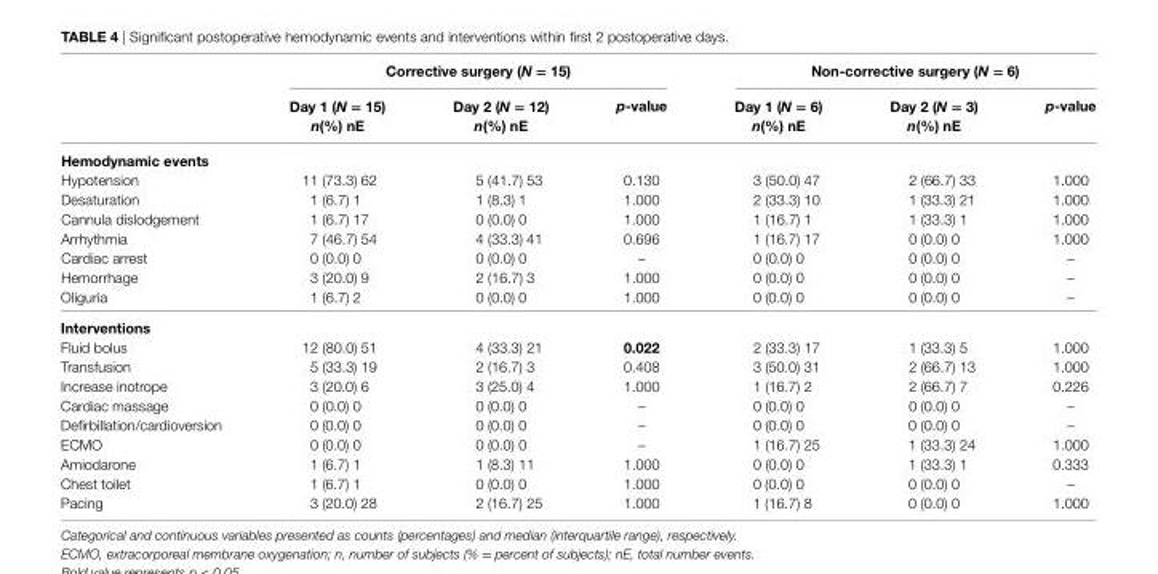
<table><thead><tr><td rowspan="2"></td><td colspan="3">corrective surgery (N = 15)</td><td colspan="3">non-corrective surgery (N = 6)</td></tr><tr><td>Day 1 (N = 15) n(%) ne</td><td>Day 2 (N = 12) n(%) ne</td><td>p-value</td><td>Day 1 (N = 6) n(%) ne</td><td>Day 2 (N = 3) n(%) ne</td><td>p-value</td></tr></thead><tbody><tr><td colspan="7">hemodynamic events</td></tr><tr><td>Hypotension</td><td>11 (73.3) 62</td><td>5 (41.7) 53</td><td>0.130</td><td>3 (50.0) 47</td><td>2 (66.7) 33</td><td>1.000</td></tr><tr><td>Desaturation</td><td>1 (6.7) 1</td><td>1 (8.3) 1</td><td>1.000</td><td>2 (33.3) 10</td><td>1 (33.3) 21</td><td>1.000</td></tr><tr><td>Cannula dislodgement</td><td>1 (6.7) 17</td><td>0 (0.0) 0</td><td>1.000</td><td>1 (16.7) 1</td><td>1 (33.3) 1</td><td>1.000</td></tr><tr><td>Arrhythmia</td><td>7 (46.7) 54</td><td>4 (33.3) 41</td><td>0.696</td><td>1 (16.7) 17</td><td>0 (0.0) 0</td><td>1.000</td></tr><tr><td>Cardiac arrest</td><td>0 (0.0) 0</td><td>0 (0.0) 0</td><td>–</td><td>0 (0.0) 0</td><td>0 (0.0) 0</td><td>–</td></tr><tr><td>Hemorrhage</td><td>3 (20.0) 9</td><td>2 (16.7) 3</td><td>1.000</td><td>0 (0.0) 0</td><td>0 (0.0) 0</td><td>–</td></tr><tr><td>Oliguria</td><td>1 (6.7) 2</td><td>0 (0.0) 0</td><td>1.000</td><td>0 (0.0) 0</td><td>0 (0.0) 0</td><td>–</td></tr><tr><td colspan="7">interventions</td></tr><tr><td>Fluid bolus</td><td>12 (80.0) 51</td><td>4 (33.3) 21</td><td>0.022</td><td>2 (33.3) 17</td><td>1 (33.3) 5</td><td>1.000</td></tr><tr><td>Transfusion</td><td>5 (33.3) 19</td><td>2 (16.7) 3</td><td>0.408</td><td>3 (50.0) 31</td><td>2 (66.7) 13</td><td>1.000</td></tr><tr><td>Increase inotrope</td><td>3 (20.0) 6</td><td>3 (25.0) 4</td><td>1.000</td><td>1 (16.7) 2</td><td>2 (66.7) 7</td><td>0.226</td></tr><tr><td>Cardiac massage</td><td>0 (0.0) 0</td><td>0 (0.0) 0</td><td>–</td><td>0 (0.0) 0</td><td>0 (0.0) 0</td><td>–</td></tr><tr><td>Defirbillation/cardioversion</td><td>0 (0.0) 0</td><td>0 (0.0) 0</td><td>–</td><td>0 (0.0) 0</td><td>0 (0.0) 0</td><td>–</td></tr><tr><td>ECMO</td><td>0 (0.0) 0</td><td>0 (0.0) 0</td><td>–</td><td>1 (16.7) 25</td><td>1 (33.3) 24</td><td>1.000</td></tr><tr><td>Amiodarone</td><td>1 (6.7) 1</td><td>1 (8.3) 11</td><td>1.000</td><td>0 (0.0) 0</td><td>1 (33.3) 1</td><td>0.333</td></tr><tr><td>Chest toilet</td><td>1 (6.7) 1</td><td>0 (0.0) 0</td><td>1.000</td><td>0 (0.0) 0</td><td>0 (0.0) 0</td><td>–</td></tr><tr><td>Pacing</td><td>3 (20.0) 28</td><td>2 (16.7) 25</td><td>1.000</td><td>1 (16.7) 8</td><td>0 (0.0) 0</td><td>1.000</td></tr></tbody></table>